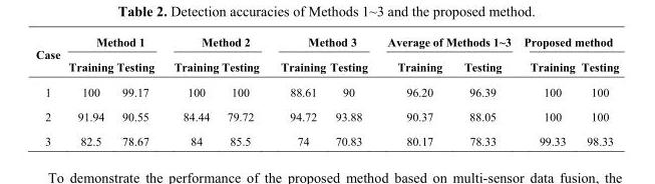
<table><thead><tr><td rowspan="2">Case</td><td colspan="2">Method 1</td><td colspan="2">Method 2</td><td colspan="2">Method 3</td><td colspan="2">Average of Methods 1~3</td><td colspan="2">Proposed method</td></tr><tr><td>Training</td><td>Testing</td><td>Training</td><td>Testing</td><td>Training</td><td>Testing</td><td>Training</td><td>Testing</td><td>Training</td><td>Testing</td></tr></thead><tbody><tr><td>1</td><td>100</td><td>99.17</td><td>100</td><td>100</td><td>88.61</td><td>90</td><td>96.20</td><td>96.39</td><td>100</td><td>100</td></tr><tr><td>2</td><td>91.94</td><td>90.55</td><td>84.44</td><td>79.72</td><td>94.72</td><td>93.88</td><td>90.37</td><td>88.05</td><td>100</td><td>100</td></tr><tr><td>3</td><td>82.5</td><td>78.67</td><td>84</td><td>85.5</td><td>74</td><td>70.83</td><td>80.17</td><td>78.33</td><td>99.33</td><td>98.33</td></tr></tbody></table>